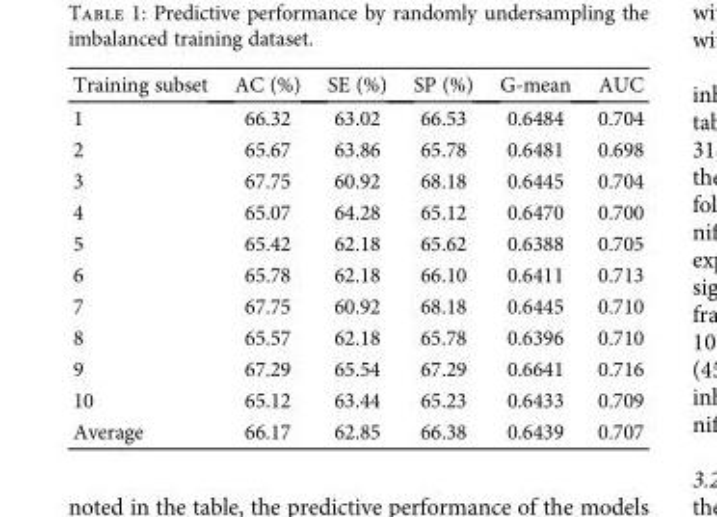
<table><thead><tr><td>Training subset</td><td>AC (%)</td><td>SE (%)</td><td>SP (%)</td><td>G-mean</td><td>AUC</td></tr></thead><tbody><tr><td>1</td><td>66.32</td><td>63.02</td><td>66.53</td><td>0.6484</td><td>0.704</td></tr><tr><td>2</td><td>65.67</td><td>63.86</td><td>65.78</td><td>0.6481</td><td>0.698</td></tr><tr><td>3</td><td>67.75</td><td>60.92</td><td>68.18</td><td>0.6445</td><td>0.704</td></tr><tr><td>4</td><td>65.07</td><td>64.28</td><td>65.12</td><td>0.6470</td><td>0.700</td></tr><tr><td>5</td><td>65.42</td><td>62.18</td><td>65.62</td><td>0.6388</td><td>0.705</td></tr><tr><td>6</td><td>65.78</td><td>62.18</td><td>66.10</td><td>0.6411</td><td>0.713</td></tr><tr><td>7</td><td>67.75</td><td>60.92</td><td>68.18</td><td>0.6445</td><td>0.710</td></tr><tr><td>8</td><td>65.57</td><td>62.18</td><td>65.78</td><td>0.6396</td><td>0.710</td></tr><tr><td>9</td><td>67.29</td><td>65.54</td><td>67.29</td><td>0.6641</td><td>0.716</td></tr><tr><td>10</td><td>65.12</td><td>63.44</td><td>65.23</td><td>0.6433</td><td>0.709</td></tr><tr><td>Average</td><td>66.17</td><td>62.85</td><td>66.38</td><td>0.6439</td><td>0.707</td></tr></tbody></table>